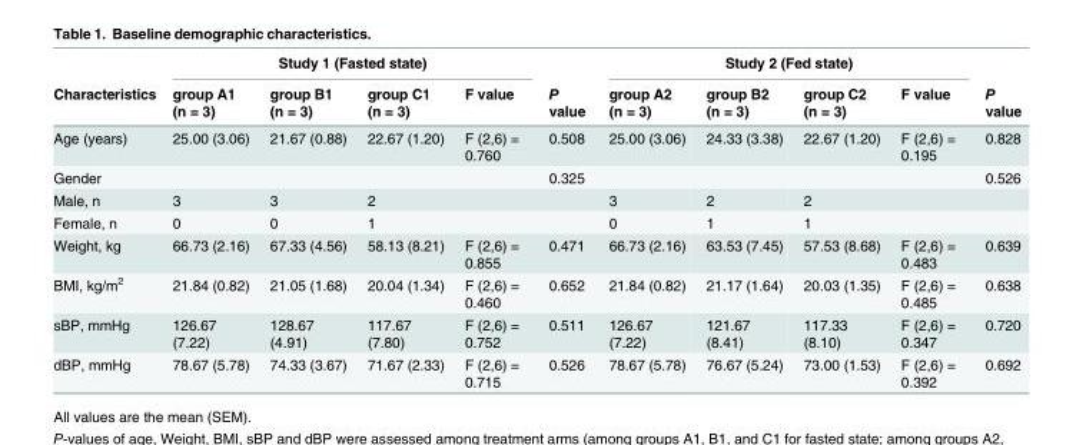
<table><thead><tr><td rowspan="2">Characteristics</td><td colspan="4">Study 1 (Fasted state)</td><td rowspan="2">P value</td><td colspan="4">Study 2 (Fed state)</td><td rowspan="2">P value</td></tr><tr><td>group A1 (n = 3)</td><td>group B1 (n = 3)</td><td>group C1 (n = 3)</td><td>F value</td><td>group A2 (n = 3)</td><td>group B2 (n = 3)</td><td>group C2 (n = 3)</td><td>F value</td></tr></thead><tbody><tr><td>Age (years)</td><td>25.00 (3.06)</td><td>21.67 (0.88)</td><td>22.67 (1.20)</td><td>F (2,6) = 0.760</td><td>0.508</td><td>25.00 (3.06)</td><td>24.33 (3.38)</td><td>22.67 (1.20)</td><td>F (2,6) = 0.195</td><td>0.828</td></tr><tr><td>Gender</td><td></td><td></td><td></td><td></td><td>0.325</td><td></td><td></td><td></td><td></td><td>0.526</td></tr><tr><td>Male, n</td><td>3</td><td>3</td><td>2</td><td></td><td></td><td>3</td><td>2</td><td>2</td><td></td><td></td></tr><tr><td>Female, n</td><td>0</td><td>0</td><td>1</td><td></td><td></td><td>0</td><td>1</td><td>1</td><td></td><td></td></tr><tr><td>Weight, kg</td><td>66.73 (2.16)</td><td>67.33 (4.56)</td><td>58.13 (8.21)</td><td>F (2,6) = 0.855</td><td>0.471</td><td>66.73 (2.16)</td><td>63.53 (7.45)</td><td>57.53 (8.68)</td><td>F (2,6) = 0.483</td><td>0.639</td></tr><tr><td>BMI, kg/m<sup>2</sup></td><td>21.84 (0.82)</td><td>21.05 (1.68)</td><td>20.04 (1.34)</td><td>F (2,6) = 0.460</td><td>0.652</td><td>21.84 (0.82)</td><td>21.17 (1.64)</td><td>20.03 (1.35)</td><td>F (2,6) = 0.485</td><td>0.638</td></tr><tr><td>sBP, mmHg</td><td>126.67 (7.22)</td><td>128.67 (4.91)</td><td>117.67 (7.80)</td><td>F (2,6) = 0.752</td><td>0.511</td><td>126.67 (7.22)</td><td>121.67 (8.41)</td><td>117.33 (8.10)</td><td>F (2,6) = 0.347</td><td>0.720</td></tr><tr><td>dBP, mmHg</td><td>78.67 (5.78)</td><td>74.33 (3.67)</td><td>71.67 (2.33)</td><td>F (2,6) = 0.715</td><td>0.526</td><td>78.67 (5.78)</td><td>76.67 (5.24)</td><td>73.00 (1.53)</td><td>F (2,6) = 0.392</td><td>0.692</td></tr></tbody></table>